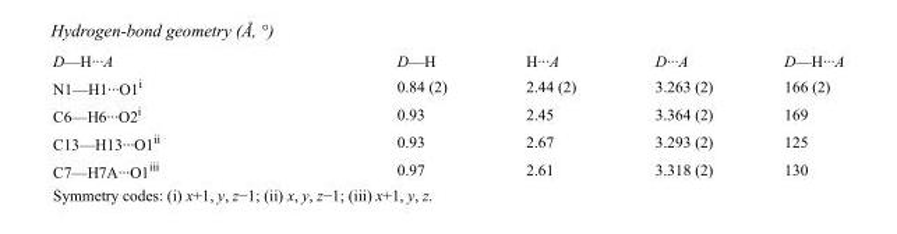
<table><tbody><tr><td>D—H···A</td><td>D—H</td><td>H···A</td><td>D···A</td><td>D—H···A</td></tr><tr><td>N1—H1···O1<sup>i</sup></td><td>0.84 (2)</td><td>2.44 (2)</td><td>3.263 (2)</td><td>166 (2)</td></tr><tr><td>C6—H6···O2<sup>i</sup></td><td>0.93</td><td>2.45</td><td>3.364 (2)</td><td>169</td></tr><tr><td>C13—H13···O1<sup>ii</sup></td><td>0.93</td><td>2.67</td><td>3.293 (2)</td><td>125</td></tr><tr><td>C7—H7A···O1<sup>iii</sup></td><td>0.97</td><td>2.61</td><td>3.318 (2)</td><td>130</td></tr></tbody></table>